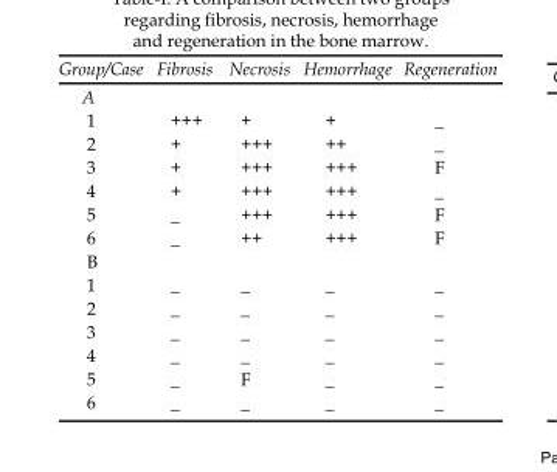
<table><thead><tr><td>Group/Case</td><td>Fibrosis</td><td>Necrosis</td><td>Hemorrhage</td><td>Regeneration</td></tr></thead><tbody><tr><td colspan="5">A</td></tr><tr><td>1</td><td>+++</td><td>+</td><td>+</td><td>_</td></tr><tr><td>2</td><td>+</td><td>+++</td><td>++</td><td>_</td></tr><tr><td>3</td><td>+</td><td>+++</td><td>+++</td><td>F</td></tr><tr><td>4</td><td>+</td><td>+++</td><td>+++</td><td>_</td></tr><tr><td>5</td><td>_</td><td>+++</td><td>+++</td><td>F</td></tr><tr><td>6</td><td>_</td><td>++</td><td>+++</td><td>F</td></tr><tr><td colspan="5">B</td></tr><tr><td>1</td><td>_</td><td>_</td><td>_</td><td>_</td></tr><tr><td>2</td><td>_</td><td>_</td><td>_</td><td>_</td></tr><tr><td>3</td><td>_</td><td>_</td><td>_</td><td>_</td></tr><tr><td>4</td><td>_</td><td>_</td><td>_</td><td>_</td></tr><tr><td>5</td><td>_</td><td>F</td><td>_</td><td>_</td></tr><tr><td>6</td><td>_</td><td>_</td><td>_</td><td>_</td></tr></tbody></table>